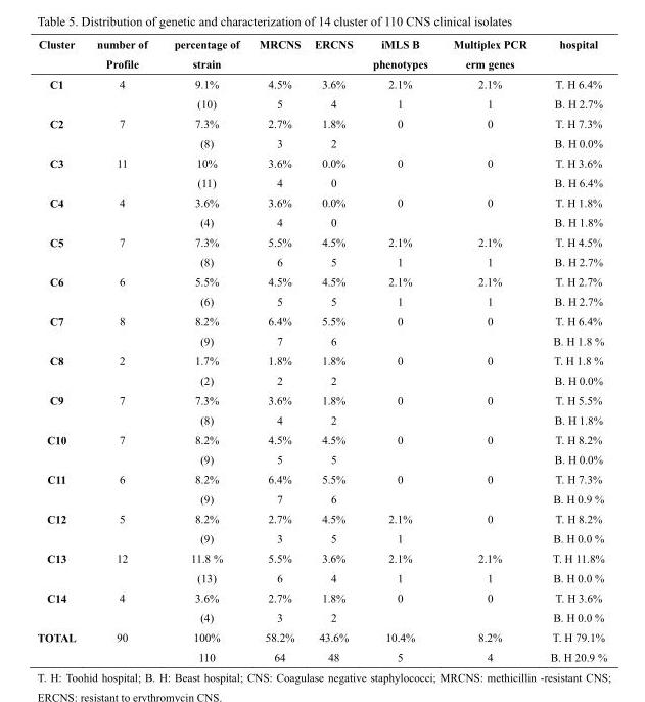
<table><thead><tr><td>Cluster</td><td>number of Profile</td><td>percentage of strain</td><td>MRCNS</td><td>ERCNS</td><td>iMLS B phenotypes</td><td>Multiplex PCR erm genes</td><td>hospital</td></tr></thead><tbody><tr><td rowspan="2">C1</td><td rowspan="2">4</td><td>9.1%</td><td>4.5%</td><td>3.6%</td><td>2.1%</td><td>2.1%</td><td>T. H 6.4%</td></tr><tr><td>(10)</td><td>5</td><td>4</td><td>1</td><td>1</td><td>B. H 2.7%</td></tr><tr><td rowspan="2">C2</td><td rowspan="2">7</td><td>7.3%</td><td>2.7%</td><td>1.8%</td><td rowspan="2">0</td><td rowspan="2">0</td><td>T. H 7.3%</td></tr><tr><td>(8)</td><td>3</td><td>2</td><td>B. H 0.0%</td></tr><tr><td rowspan="2">C3</td><td rowspan="2">11</td><td>10%</td><td>3.6%</td><td>0.0%</td><td rowspan="2">0</td><td rowspan="2">0</td><td>T. H 3.6%</td></tr><tr><td>(11)</td><td>4</td><td>0</td><td>B. H 6.4%</td></tr><tr><td rowspan="2">C4</td><td rowspan="2">4</td><td>3.6%</td><td>3.6%</td><td>0.0%</td><td rowspan="2">0</td><td rowspan="2">0</td><td>T. H 1.8%</td></tr><tr><td>(4)</td><td>4</td><td>0</td><td>B. H 1.8%</td></tr><tr><td rowspan="2">C5</td><td rowspan="2">7</td><td>7.3%</td><td>5.5%</td><td>4.5%</td><td>2.1%</td><td>2.1%</td><td>T. H 4.5%</td></tr><tr><td>(8)</td><td>6</td><td>5</td><td>1</td><td>1</td><td>B. H 2.7%</td></tr><tr><td rowspan="2">C6</td><td rowspan="2">6</td><td>5.5%</td><td>4.5%</td><td>4.5%</td><td>2.1%</td><td>2.1%</td><td>T. H 2.7%</td></tr><tr><td>(6)</td><td>5</td><td>5</td><td>1</td><td>1</td><td>B. H 2.7%</td></tr><tr><td rowspan="2">C7</td><td rowspan="2">8</td><td>8.2%</td><td>6.4%</td><td>5.5%</td><td rowspan="2">0</td><td rowspan="2">0</td><td>T. H 6.4%</td></tr><tr><td>(9)</td><td>7</td><td>6</td><td>B. H 1.8 %</td></tr><tr><td rowspan="2">C8</td><td rowspan="2">2</td><td>1.7%</td><td>1.8%</td><td>1.8%</td><td rowspan="2">0</td><td rowspan="2">0</td><td>T. H 1.8 %</td></tr><tr><td>(2)</td><td>2</td><td>2</td><td>B. H 0.0%</td></tr><tr><td rowspan="2">C9</td><td rowspan="2">7</td><td>7.3%</td><td>3.6%</td><td>1.8%</td><td rowspan="2">0</td><td rowspan="2">0</td><td>T. H 5.5%</td></tr><tr><td>(8)</td><td>4</td><td>2</td><td>B. H 1.8%</td></tr><tr><td rowspan="2">C10</td><td rowspan="2">7</td><td>8.2%</td><td>4.5%</td><td>4.5%</td><td rowspan="2">0</td><td rowspan="2">0</td><td>T. H 8.2%</td></tr><tr><td>(9)</td><td>5</td><td>5</td><td>B. H 0.0%</td></tr><tr><td rowspan="2">C11</td><td rowspan="2">6</td><td>8.2%</td><td>6.4%</td><td>5.5%</td><td rowspan="2">0</td><td rowspan="2">0</td><td>T. H 7.3%</td></tr><tr><td>(9)</td><td>7</td><td>6</td><td>B. H 0.9 %</td></tr><tr><td rowspan="2">C12</td><td rowspan="2">5</td><td>8.2%</td><td>2.7%</td><td>4.5%</td><td>2.1%</td><td rowspan="2">0</td><td>T. H 8.2%</td></tr><tr><td>(9)</td><td>3</td><td>5</td><td>1</td><td>B. H 0.0 %</td></tr><tr><td rowspan="2">C13</td><td rowspan="2">12</td><td>11.8 %</td><td>5.5%</td><td>3.6%</td><td>2.1%</td><td>2.1%</td><td>T. H 11.8%</td></tr><tr><td>(13)</td><td>6</td><td>4</td><td>1</td><td>1</td><td>B. H 0.0 %</td></tr><tr><td rowspan="2">C14</td><td rowspan="2">4</td><td>3.6%</td><td>2.7%</td><td>1.8%</td><td rowspan="2">0</td><td rowspan="2">0</td><td>T. H 3.6%</td></tr><tr><td>(4)</td><td>3</td><td>2</td><td>B. H 0.0 %</td></tr><tr><td rowspan="2">TOTAL</td><td rowspan="2">90</td><td>100%</td><td>58.2%</td><td>43.6%</td><td>10.4%</td><td>8.2%</td><td>T. H 79.1%</td></tr><tr><td>110</td><td>64</td><td>48</td><td>5</td><td>4</td><td>B. H 20.9 %</td></tr></tbody></table>